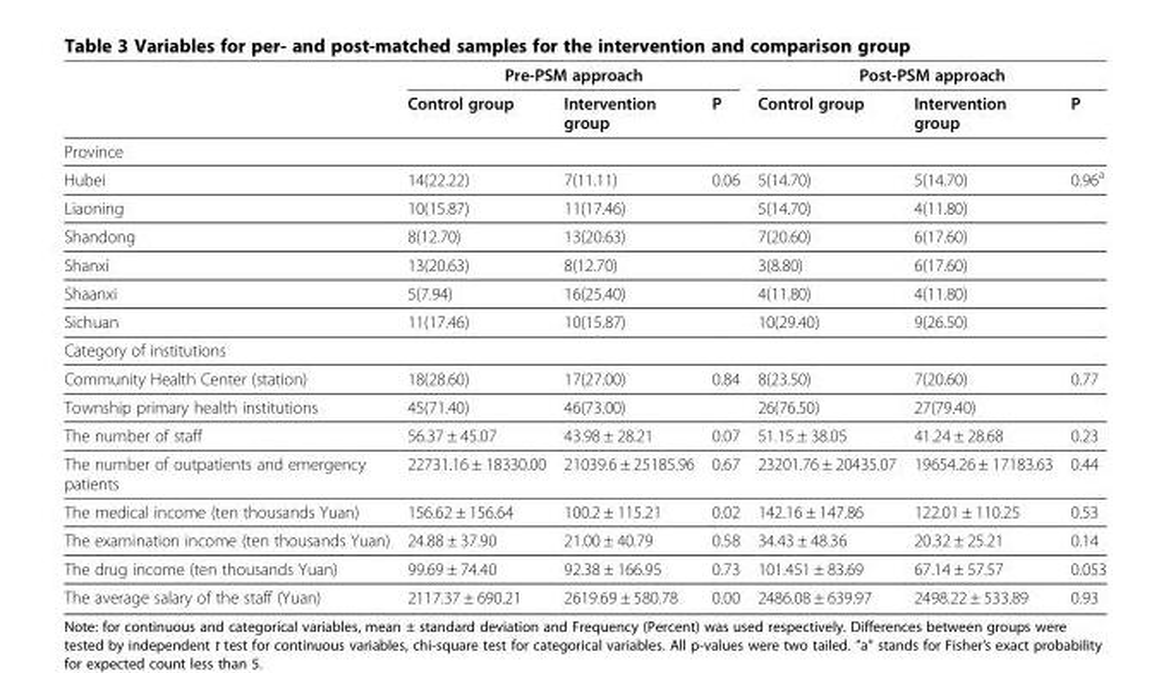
<table><thead><tr><td rowspan="2"></td><td colspan="3">Pre-PSM approach</td><td colspan="3">Post-PSM approach</td></tr><tr><td>Control group</td><td>Intervention group</td><td>P</td><td>Control group</td><td>Intervention group</td><td>P</td></tr></thead><tbody><tr><td colspan="7">Province</td></tr><tr><td>Hubei</td><td>14(22.22)</td><td>7(11.11)</td><td>0.06</td><td>5(14.70)</td><td>5(14.70)</td><td>0.96<sup>a</sup></td></tr><tr><td>Liaoning</td><td>10(15.87)</td><td>11(17.46)</td><td></td><td>5(14.70)</td><td>4(11.80)</td><td></td></tr><tr><td>Shandong</td><td>8(12.70)</td><td>13(20.63)</td><td></td><td>7(20.60)</td><td>6(17.60)</td><td></td></tr><tr><td>Shanxi</td><td>13(20.63)</td><td>8(12.70)</td><td></td><td>3(8.80)</td><td>6(17.60)</td><td></td></tr><tr><td>Shaanxi</td><td>5(7.94)</td><td>16(25.40)</td><td></td><td>4(11.80)</td><td>4(11.80)</td><td></td></tr><tr><td>Sichuan</td><td>11(17.46)</td><td>10(15.87)</td><td></td><td>10(29.40)</td><td>9(26.50)</td><td></td></tr><tr><td colspan="7">Category of institutions</td></tr><tr><td>Community Health Center (station)</td><td>18(28.60)</td><td>17(27.00)</td><td>0.84</td><td>8(23.50)</td><td>7(20.60)</td><td>0.77</td></tr><tr><td>Township primary health institutions</td><td>45(71.40)</td><td>46(73.00)</td><td></td><td>26(76.50)</td><td>27(79.40)</td><td></td></tr><tr><td>The number of staff</td><td>56.37 ± 45.07</td><td>43.98 ± 28.21</td><td>0.07</td><td>51.15 ± 38.05</td><td>41.24 ± 28.68</td><td>0.23</td></tr><tr><td>The number of outpatients and emergency patients</td><td>22731.16 ± 18330.00</td><td>21039.6 ± 25185.96</td><td>0.67</td><td>23201.76 ± 20435.07</td><td>19654.26 ± 17183.63</td><td>0.44</td></tr><tr><td>The medical income (ten thousands Yuan)</td><td>156.62 ± 156.64</td><td>100.2 ± 115.21</td><td>0.02</td><td>142.16 ± 147.86</td><td>122.01 ± 110.25</td><td>0.53</td></tr><tr><td>The examination income (ten thousands Yuan)</td><td>24.88 ± 37.90</td><td>21.00 ± 40.79</td><td>0.58</td><td>34.43 ± 48.36</td><td>20.32 ± 25.21</td><td>0.14</td></tr><tr><td>The drug income (ten thousands Yuan)</td><td>99.69 ± 74.40</td><td>92.38 ± 166.95</td><td>0.73</td><td>101.451 ± 83.69</td><td>67.14 ± 57.57</td><td>0.053</td></tr><tr><td>The average salary of the staff (Yuan)</td><td>2117.37 ± 690.21</td><td>2619.69 ± 580.78</td><td>0.00</td><td>2486.08 ± 639.97</td><td>2498.22 ± 533.89</td><td>0.93</td></tr></tbody></table>